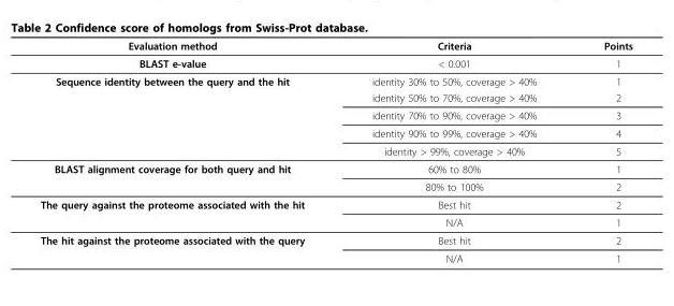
<table><thead><tr><td>Evaluation method</td><td>Criteria</td><td>Points</td></tr></thead><tbody><tr><td>BLAST e-value</td><td>&lt; 0.001</td><td>1</td></tr><tr><td rowspan="5">Sequence identity between the query and the hit</td><td>identity 30% to 50%, coverage &gt; 40%</td><td>1</td></tr><tr><td>identity 50% to 70%, coverage &gt; 40%</td><td>2</td></tr><tr><td>identity 70% to 90%, coverage &gt; 40%</td><td>3</td></tr><tr><td>identity 90% to 99%, coverage &gt; 40%</td><td>4</td></tr><tr><td>identity &gt; 99%, coverage &gt; 40%</td><td>5</td></tr><tr><td rowspan="2">BLAST alignment coverage for both query and hit</td><td>60% to 80%</td><td>1</td></tr><tr><td>80% to 100%</td><td>2</td></tr><tr><td rowspan="2">The query against the proteome associated with the hit</td><td>Best hit</td><td>2</td></tr><tr><td>N/A</td><td>1</td></tr><tr><td rowspan="2">The hit against the proteome associated with the query</td><td>Best hit</td><td>2</td></tr><tr><td>N/A</td><td>1</td></tr></tbody></table>